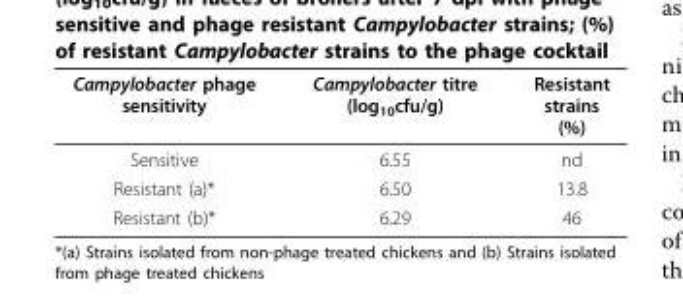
<table><thead><tr><td>Campylobacter phage sensitivity</td><td>Campylobacter titre (log<sub>10</sub>cfu/g)</td><td>Resistant strains (%)</td></tr></thead><tbody><tr><td>Sensitive</td><td>6.55</td><td>nd</td></tr><tr><td>Resistant (a)*</td><td>6.50</td><td>13.8</td></tr><tr><td>Resistant (b)*</td><td>6.29</td><td>46</td></tr></tbody></table>